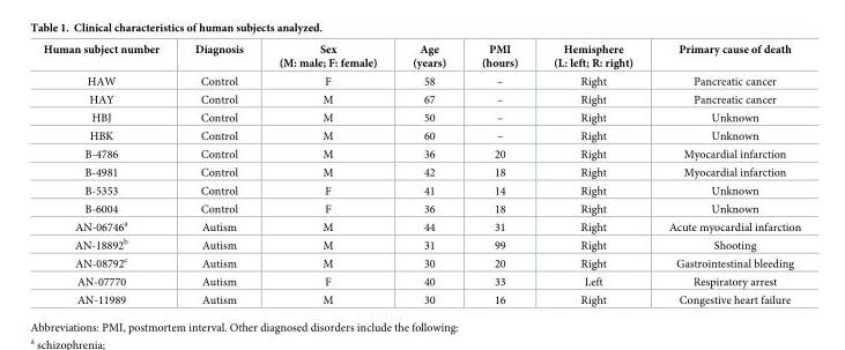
<table><thead><tr><td>Human subject number</td><td>Diagnosis</td><td>Sex (M: male; F: female)</td><td>Age (years)</td><td>PMI (hours)</td><td>Hemisphere (L: left; R: right)</td><td>Primary cause of death</td></tr></thead><tbody><tr><td>HAW</td><td>Control</td><td>F</td><td>58</td><td>–</td><td>Right</td><td>Pancreatic cancer</td></tr><tr><td>HAY</td><td>Control</td><td>M</td><td>67</td><td>–</td><td>Right</td><td>Pancreatic cancer</td></tr><tr><td>HBJ</td><td>Control</td><td>M</td><td>50</td><td>–</td><td>Right</td><td>Unknown</td></tr><tr><td>HBK</td><td>Control</td><td>M</td><td>60</td><td>–</td><td>Right</td><td>Unknown</td></tr><tr><td>B-4786</td><td>Control</td><td>M</td><td>36</td><td>20</td><td>Right</td><td>Myocardial infarction</td></tr><tr><td>B-4981</td><td>Control</td><td>M</td><td>42</td><td>18</td><td>Right</td><td>Myocardial infarction</td></tr><tr><td>B-5353</td><td>Control</td><td>F</td><td>41</td><td>14</td><td>Right</td><td>Unknown</td></tr><tr><td>B-6004</td><td>Control</td><td>F</td><td>36</td><td>18</td><td>Right</td><td>Unknown</td></tr><tr><td>AN-06746<sup>a</sup></td><td>Autism</td><td>M</td><td>44</td><td>31</td><td>Right</td><td>Acute myocardial infarction</td></tr><tr><td>AN-18892<sup>b</sup></td><td>Autism</td><td>M</td><td>31</td><td>99</td><td>Right</td><td>Shooting</td></tr><tr><td>AN-08792<sup>c</sup></td><td>Autism</td><td>M</td><td>30</td><td>20</td><td>Right</td><td>Gastrointestinal bleeding</td></tr><tr><td>AN-07770</td><td>Autism</td><td>F</td><td>40</td><td>33</td><td>Left</td><td>Respiratory arrest</td></tr><tr><td>AN-11989</td><td>Autism</td><td>M</td><td>30</td><td>16</td><td>Right</td><td>Congestive heart failure</td></tr></tbody></table>